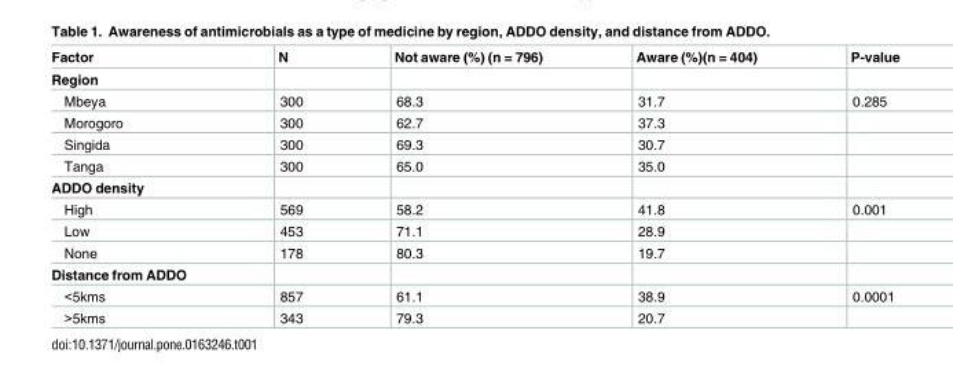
<table><thead><tr><td>Factor</td><td>N</td><td>Not aware (%) (n = 796)</td><td>Aware (%)(n = 404)</td><td>P-value</td></tr></thead><tbody><tr><td colspan="5">Region</td></tr><tr><td>Mbeya</td><td>300</td><td>68.3</td><td>31.7</td><td>0.285</td></tr><tr><td>Morogoro</td><td>300</td><td>62.7</td><td>37.3</td><td></td></tr><tr><td>Singida</td><td>300</td><td>69.3</td><td>30.7</td><td></td></tr><tr><td>Tanga</td><td>300</td><td>65.0</td><td>35.0</td><td></td></tr><tr><td colspan="5">ADDO density</td></tr><tr><td>High</td><td>569</td><td>58.2</td><td>41.8</td><td>0.001</td></tr><tr><td>Low</td><td>453</td><td>71.1</td><td>28.9</td><td></td></tr><tr><td>None</td><td>178</td><td>80.3</td><td>19.7</td><td></td></tr><tr><td colspan="5">Distance from ADDO</td></tr><tr><td>&lt;5kms</td><td>857</td><td>61.1</td><td>38.9</td><td>0.0001</td></tr><tr><td>&gt;5kms</td><td>343</td><td>79.3</td><td>20.7</td><td></td></tr></tbody></table>